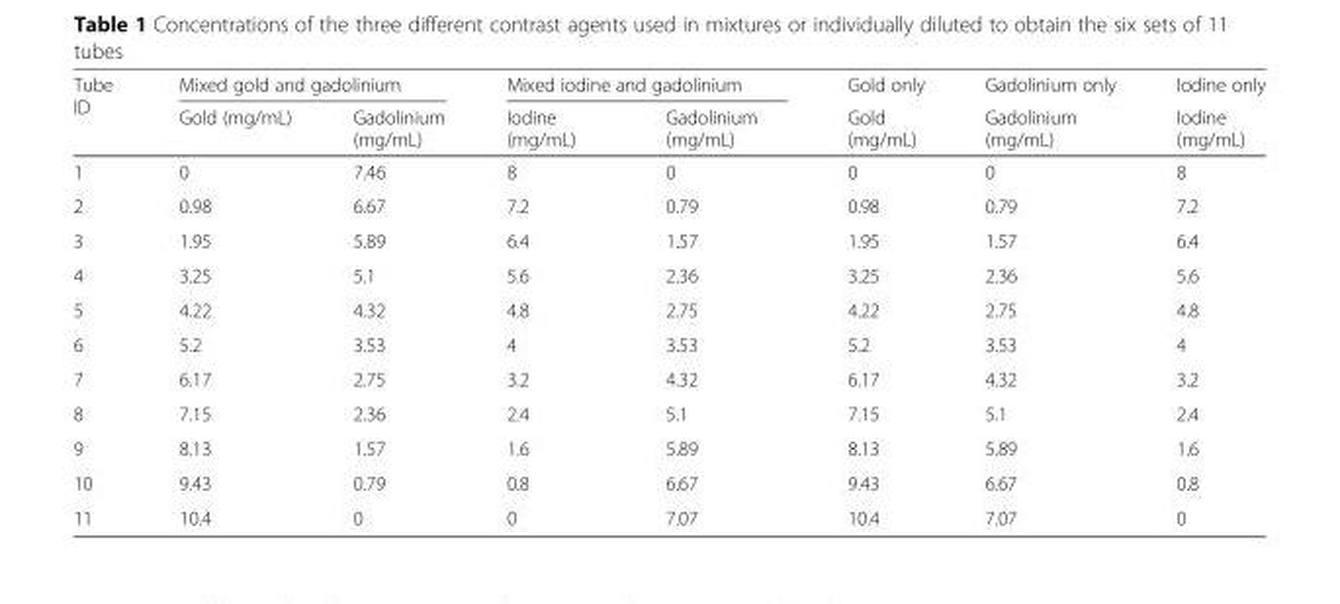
<table><thead><tr><td rowspan="2">Tube ID</td><td colspan="2">Mixed gold and gadolinium</td><td colspan="2">Mixed iodine and gadolinium</td><td rowspan="2">Gold only Gold (mg/mL)</td><td rowspan="2">Gadolinium only Gadolinium (mg/mL)</td><td rowspan="2">Iodine only Iodine (mg/mL)</td></tr><tr><td>Gold (mg/mL)</td><td>Gadolinium (mg/mL)</td><td>Iodine (mg/mL)</td><td>Gadolinium (mg/mL)</td></tr></thead><tbody><tr><td>1</td><td>0</td><td>7.46</td><td>8</td><td>0</td><td>0</td><td>0</td><td>8</td></tr><tr><td>2</td><td>0.98</td><td>6.67</td><td>7.2</td><td>0.79</td><td>0.98</td><td>0.79</td><td>7.2</td></tr><tr><td>3</td><td>1.95</td><td>5.89</td><td>6.4</td><td>1.57</td><td>1.95</td><td>1.57</td><td>6.4</td></tr><tr><td>4</td><td>3.25</td><td>5.1</td><td>5.6</td><td>2.36</td><td>3.25</td><td>2.36</td><td>5.6</td></tr><tr><td>5</td><td>4.22</td><td>4.32</td><td>4.8</td><td>2.75</td><td>4.22</td><td>2.75</td><td>4.8</td></tr><tr><td>6</td><td>5.2</td><td>3.53</td><td>4</td><td>3.53</td><td>5.2</td><td>3.53</td><td>4</td></tr><tr><td>7</td><td>6.17</td><td>2.75</td><td>3.2</td><td>4.32</td><td>6.17</td><td>4.32</td><td>3.2</td></tr><tr><td>8</td><td>7.15</td><td>2.36</td><td>2.4</td><td>5.1</td><td>7.15</td><td>5.1</td><td>2.4</td></tr><tr><td>9</td><td>8.13</td><td>1.57</td><td>1.6</td><td>5.89</td><td>8.13</td><td>5.89</td><td>1.6</td></tr><tr><td>10</td><td>9.43</td><td>0.79</td><td>0.8</td><td>6.67</td><td>9.43</td><td>6.67</td><td>0.8</td></tr><tr><td>11</td><td>10.4</td><td>0</td><td>0</td><td>7.07</td><td>10.4</td><td>7.07</td><td>0</td></tr></tbody></table>